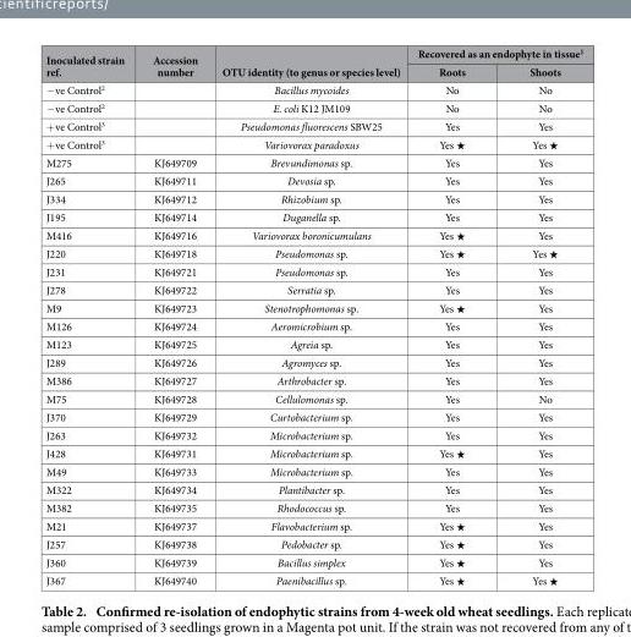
<table><thead><tr><td rowspan="2">Inoculated strain ref.</td><td rowspan="2">Accession number</td><td rowspan="2">OTU identity (to genus or species level)</td><td colspan="2">Recovered as an endophyte in tissue<sup>1</sup></td></tr><tr><td>Roots</td><td>Shoots</td></tr></thead><tbody><tr><td>− ve Control<sup>2</sup></td><td></td><td>Bacillus mycoides</td><td>No</td><td>No</td></tr><tr><td>− ve Control<sup>2</sup></td><td></td><td>E. coli K12 JM109</td><td>No</td><td>No</td></tr><tr><td>+ ve Control<sup>3</sup></td><td></td><td>Pseudomonas fluorescens SBW25</td><td>Yes</td><td>Yes</td></tr><tr><td>+ ve Control<sup>3</sup></td><td></td><td>Variovorax paradoxus</td><td>Yes ★</td><td>Yes ★</td></tr><tr><td>M275</td><td>KJ649709</td><td>Brevundimonas sp.</td><td>Yes</td><td>Yes</td></tr><tr><td>J265</td><td>KJ649711</td><td>Devosia sp.</td><td>Yes</td><td>Yes</td></tr><tr><td>J334</td><td>KJ649712</td><td>Rhizobium sp.</td><td>Yes</td><td>Yes</td></tr><tr><td>J195</td><td>KJ649714</td><td>Duganella sp.</td><td>Yes</td><td>Yes</td></tr><tr><td>M416</td><td>KJ649716</td><td>Variovorax boronicumulans</td><td>Yes ★</td><td>Yes</td></tr><tr><td>J220</td><td>KJ649718</td><td>Pseudomonas sp.</td><td>Yes ★</td><td>Yes ★</td></tr><tr><td>J231</td><td>KJ649721</td><td>Pseudomonas sp.</td><td>Yes</td><td>Yes</td></tr><tr><td>J278</td><td>KJ649722</td><td>Serratia sp.</td><td>Yes</td><td>Yes</td></tr><tr><td>M9</td><td>KJ649723</td><td>Stenotrophomonas sp.</td><td>Yes ★</td><td>Yes</td></tr><tr><td>M126</td><td>KJ649724</td><td>Aeromicrobium sp.</td><td>Yes</td><td>Yes</td></tr><tr><td>M123</td><td>KJ649725</td><td>Agreia sp.</td><td>Yes</td><td>Yes</td></tr><tr><td>J289</td><td>KJ649726</td><td>Agromyces sp.</td><td>Yes</td><td>Yes</td></tr><tr><td>M386</td><td>KJ649727</td><td>Arthrobacter sp.</td><td>Yes</td><td>Yes</td></tr><tr><td>M75</td><td>KJ649728</td><td>Cellulomonas sp.</td><td>Yes</td><td>No</td></tr><tr><td>J370</td><td>KJ649729</td><td>Curtobacterium sp.</td><td>Yes</td><td>Yes</td></tr><tr><td>J263</td><td>KJ649732</td><td>Microbacterium sp.</td><td>Yes</td><td>Yes</td></tr><tr><td>J428</td><td>KJ649731</td><td>Microbacterium sp.</td><td>Yes ★</td><td>Yes</td></tr><tr><td>M49</td><td>KJ649733</td><td>Microbacterium sp.</td><td>Yes</td><td>Yes</td></tr><tr><td>M322</td><td>KJ649734</td><td>Plantibacter sp.</td><td>Yes</td><td>Yes</td></tr><tr><td>M382</td><td>KJ649735</td><td>Rhodococcus sp.</td><td>Yes</td><td>Yes</td></tr><tr><td>M21</td><td>KJ649737</td><td>Flavobacterium sp.</td><td>Yes ★</td><td>Yes</td></tr><tr><td>J257</td><td>KJ649738</td><td>Pedobacter sp.</td><td>Yes ★</td><td>Yes</td></tr><tr><td>J360</td><td>KJ649739</td><td>Bacillus simplex</td><td>Yes ★</td><td>Yes</td></tr><tr><td>J367</td><td>KJ649740</td><td>Paenibacillus sp.</td><td>Yes ★</td><td>Yes ★</td></tr></tbody></table>